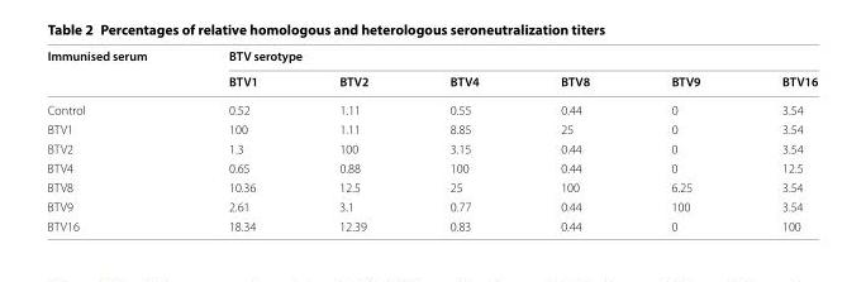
<table><thead><tr><td rowspan="2">Immunised serum</td><td colspan="6">BTV serotype</td></tr><tr><td>BTV1</td><td>BTV2</td><td>BTV4</td><td>BTV8</td><td>BTV9</td><td>BTV16</td></tr></thead><tbody><tr><td>Control</td><td>0.52</td><td>1.11</td><td>0.55</td><td>0.44</td><td>0</td><td>3.54</td></tr><tr><td>BTV1</td><td>100</td><td>1.11</td><td>8.85</td><td>25</td><td>0</td><td>3.54</td></tr><tr><td>BTV2</td><td>1.3</td><td>100</td><td>3.15</td><td>0.44</td><td>0</td><td>3.54</td></tr><tr><td>BTV4</td><td>0.65</td><td>0.88</td><td>100</td><td>0.44</td><td>0</td><td>12.5</td></tr><tr><td>BTV8</td><td>10.36</td><td>12.5</td><td>25</td><td>100</td><td>6.25</td><td>3.54</td></tr><tr><td>BTV9</td><td>2.61</td><td>3.1</td><td>0.77</td><td>0.44</td><td>100</td><td>3.54</td></tr><tr><td>BTV16</td><td>18.34</td><td>12.39</td><td>0.83</td><td>0.44</td><td>0</td><td>100</td></tr></tbody></table>